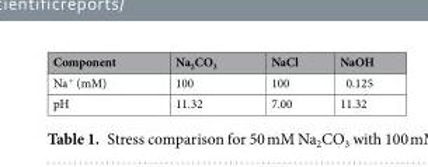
<table><thead><tr><td>Component</td><td>Na<sub>2</sub>CO<sub>3</sub></td><td>NaCl</td><td>NaOH</td></tr></thead><tbody><tr><td>Na<sup>+</sup> (mM)</td><td>100</td><td>100</td><td>0.125</td></tr><tr><td>pH</td><td>11.32</td><td>7.00</td><td>11.32</td></tr></tbody></table>